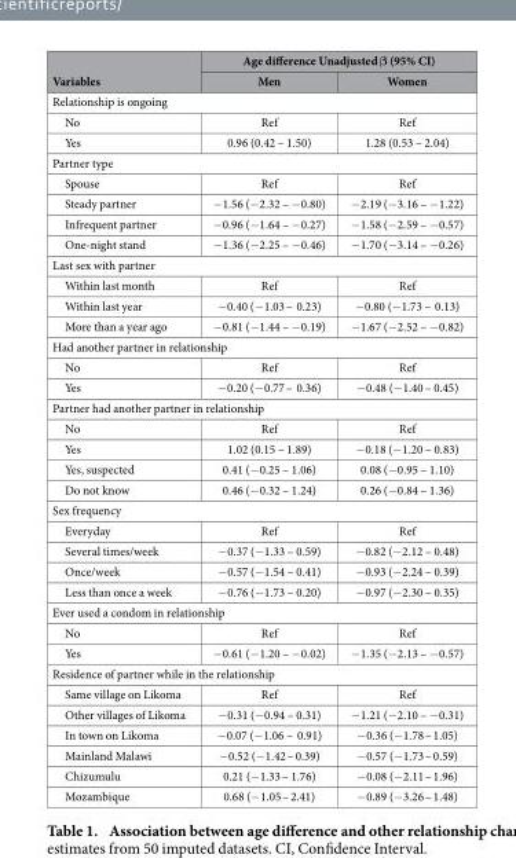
<table><thead><tr><td rowspan="2">Variables</td><td colspan="2">Age difference Unadjusted β (95% CI)</td></tr><tr><td>Men</td><td>Women</td></tr></thead><tbody><tr><td colspan="3">Relationship is ongoing</td></tr><tr><td>No</td><td>Ref</td><td>Ref</td></tr><tr><td>Yes</td><td>0.96 (0.42 – 1.50)</td><td>1.28 (0.53 – 2.04)</td></tr><tr><td colspan="3">Partner type</td></tr><tr><td>Spouse</td><td>Ref</td><td>Ref</td></tr><tr><td>Steady partner</td><td>− 1.56 (− 2.32 – − 0.80)</td><td>− 2.19 (− 3.16 – − 1.22)</td></tr><tr><td>Infrequent partner</td><td>− 0.96 (− 1.64 – − 0.27)</td><td>− 1.58 (− 2.59 – − 0.57)</td></tr><tr><td>One-night stand</td><td>− 1.36 (− 2.25 – − 0.46)</td><td>− 1.70 (− 3.14 – − 0.26)</td></tr><tr><td colspan="3">Last sex with partner</td></tr><tr><td>Within last month</td><td>Ref</td><td>Ref</td></tr><tr><td>Within last year</td><td>− 0.40 (− 1.03 – 0.23)</td><td>− 0.80 (− 1.73 – 0.13)</td></tr><tr><td>More than a year ago</td><td>− 0.81 (− 1.44 – − 0.19)</td><td>− 1.67 (− 2.52 – − 0.82)</td></tr><tr><td colspan="3">Had another partner in relationship</td></tr><tr><td>No</td><td>Ref</td><td>Ref</td></tr><tr><td>Yes</td><td>− 0.20 (− 0.77 – 0.36)</td><td>− 0.48 (− 1.40 – 0.45)</td></tr><tr><td colspan="3">Partner had another partner in relationship</td></tr><tr><td>No</td><td>Ref</td><td>Ref</td></tr><tr><td>Yes</td><td>1.02 (0.15 – 1.89)</td><td>− 0.18 (− 1.20 – 0.83)</td></tr><tr><td>Yes, suspected</td><td>0.41 (− 0.25 – 1.06)</td><td>0.08 (− 0.95 – 1.10)</td></tr><tr><td>Do not know</td><td>0.46 (− 0.32 – 1.24)</td><td>0.26 (− 0.84 – 1.36)</td></tr><tr><td colspan="3">Sex frequency</td></tr><tr><td>Everyday</td><td>Ref</td><td>Ref</td></tr><tr><td>Several times/week</td><td>− 0.37 (− 1.33 – 0.59)</td><td>− 0.82 (− 2.12 – 0.48)</td></tr><tr><td>Once/week</td><td>− 0.57 (− 1.54 – 0.41)</td><td>− 0.93 (− 2.24 – 0.39)</td></tr><tr><td>Less than once a week</td><td>− 0.76 (− 1.73 – 0.20)</td><td>− 0.97 (− 2.30 – 0.35)</td></tr><tr><td colspan="3">Ever used a condom in relationship</td></tr><tr><td>No</td><td>Ref</td><td>Ref</td></tr><tr><td>Yes</td><td>− 0.61 (− 1.20 – − 0.02)</td><td>− 1.35 (− 2.13 – − 0.57)</td></tr><tr><td colspan="3">Residence of partner while in the relationship</td></tr><tr><td>Same village on Likoma</td><td>Ref</td><td>Ref</td></tr><tr><td>Other villages of Likoma</td><td>− 0.31 (− 0.94 – 0.31)</td><td>− 1.21 (− 2.10 – − 0.31)</td></tr><tr><td>In town on Likoma</td><td>− 0.07 (− 1.06 – 0.91)</td><td>− 0.36 (− 1.78 – 1.05)</td></tr><tr><td>Mainland Malawi</td><td>− 0.52 (− 1.42 – 0.39)</td><td>− 0.57 (− 1.73 – 0.59)</td></tr><tr><td>Chizumulu</td><td>0.21 (− 1.33 – 1.76)</td><td>− 0.08 (− 2.11 – 1.96)</td></tr><tr><td>Mozambique</td><td>0.68 (− 1.05 – 2.41)</td><td>− 0.89 (− 3.26 – 1.48)</td></tr></tbody></table>